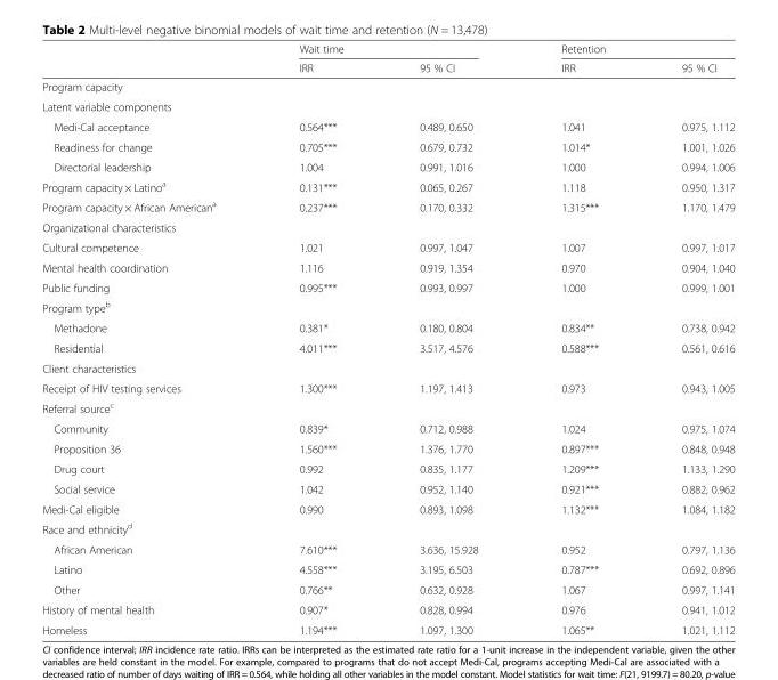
<table><thead><tr><td rowspan="2"></td><td colspan="2">Wait time</td><td colspan="2">Retention</td></tr><tr><td>IRR</td><td>95 % CI</td><td>IRR</td><td>95 % CI</td></tr></thead><tbody><tr><td colspan="5">Program capacity</td></tr><tr><td colspan="5">Latent variable components</td></tr><tr><td>Medi-Cal acceptance</td><td>0.564***</td><td>0.489, 0.650</td><td>1.041</td><td>0.975, 1.112</td></tr><tr><td>Readiness for change</td><td>0.705***</td><td>0.679, 0.732</td><td>1.014*</td><td>1.001, 1.026</td></tr><tr><td>Directorial leadership</td><td>1.004</td><td>0.991, 1.016</td><td>1.000</td><td>0.994, 1.006</td></tr><tr><td>Program capacity × Latino<sup>a</sup></td><td>0.131***</td><td>0.065, 0.267</td><td>1.118</td><td>0.950, 1.317</td></tr><tr><td>Program capacity × African American<sup>a</sup></td><td>0.237***</td><td>0.170, 0.332</td><td>1.315***</td><td>1.170, 1.479</td></tr><tr><td colspan="5">Organizational characteristics</td></tr><tr><td>Cultural competence</td><td>1.021</td><td>0.997, 1.047</td><td>1.007</td><td>0.997, 1.017</td></tr><tr><td>Mental health coordination</td><td>1.116</td><td>0.919, 1.354</td><td>0.970</td><td>0.904, 1.040</td></tr><tr><td>Public funding</td><td>0.995***</td><td>0.993, 0.997</td><td>1.000</td><td>0.999, 1.001</td></tr><tr><td colspan="5">Program type<sup>b</sup></td></tr><tr><td>Methadone</td><td>0.381*</td><td>0.180, 0.804</td><td>0.834**</td><td>0.738, 0.942</td></tr><tr><td>Residential</td><td>4.011***</td><td>3.517, 4.576</td><td>0.588***</td><td>0.561, 0.616</td></tr><tr><td colspan="5">Client characteristics</td></tr><tr><td>Receipt of HIV testing services</td><td>1.300***</td><td>1.197, 1.413</td><td>0.973</td><td>0.943, 1.005</td></tr><tr><td colspan="5">Referral source<sup>c</sup></td></tr><tr><td>Community</td><td>0.839*</td><td>0.712, 0.988</td><td>1.024</td><td>0.975, 1.074</td></tr><tr><td>Proposition 36</td><td>1.560***</td><td>1.376, 1.770</td><td>0.897***</td><td>0.848, 0.948</td></tr><tr><td>Drug court</td><td>0.992</td><td>0.835, 1.177</td><td>1.209***</td><td>1.133, 1.290</td></tr><tr><td>Social service</td><td>1.042</td><td>0.952, 1.140</td><td>0.921***</td><td>0.882, 0.962</td></tr><tr><td>Medi-Cal eligible</td><td>0.990</td><td>0.893, 1.098</td><td>1.132***</td><td>1.084, 1.182</td></tr><tr><td colspan="5">Race and ethnicity<sup>d</sup></td></tr><tr><td>African American</td><td>7.610***</td><td>3.636, 15.928</td><td>0.952</td><td>0.797, 1.136</td></tr><tr><td>Latino</td><td>4.558***</td><td>3.195, 6.503</td><td>0.787***</td><td>0.692, 0.896</td></tr><tr><td>Other</td><td>0.766**</td><td>0.632, 0.928</td><td>1.067</td><td>0.997, 1.141</td></tr><tr><td>History of mental health</td><td>0.907*</td><td>0.828, 0.994</td><td>0.976</td><td>0.941, 1.012</td></tr><tr><td>Homeless</td><td>1.194***</td><td>1.097, 1.300</td><td>1.065**</td><td>1.021, 1.112</td></tr></tbody></table>